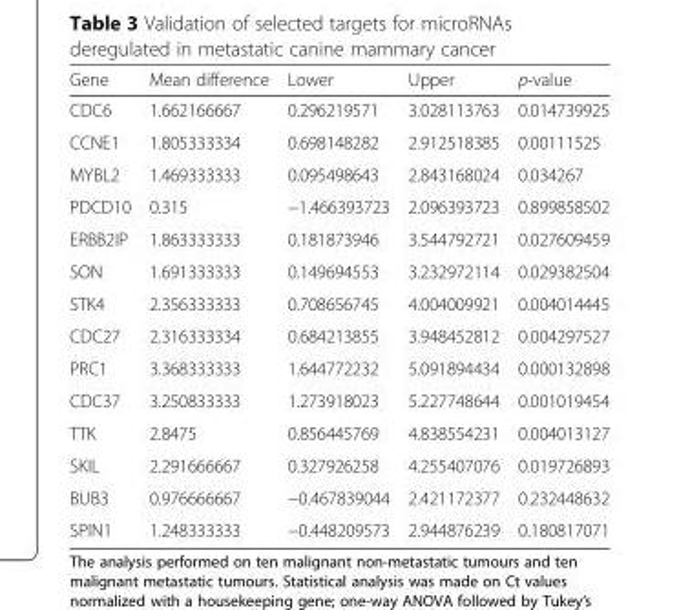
<table><thead><tr><td>Gene</td><td>Mean difference</td><td>Lower</td><td>Upper</td><td>p-value</td></tr></thead><tbody><tr><td>CDC6</td><td>1.662166667</td><td>0.296219571</td><td>3.028113763</td><td>0.014739925</td></tr><tr><td>CCNE1</td><td>1.805333334</td><td>0.698148282</td><td>2.912518385</td><td>0.00111525</td></tr><tr><td>MYBL2</td><td>1.469333333</td><td>0.095498643</td><td>2.843168024</td><td>0.034267</td></tr><tr><td>PDCD10</td><td>0.315</td><td>−1.466393723</td><td>2.096393723</td><td>0.899858502</td></tr><tr><td>ERBB2IP</td><td>1.863333333</td><td>0.181873946</td><td>3.544792721</td><td>0.027609459</td></tr><tr><td>SON</td><td>1.691333333</td><td>0.149694553</td><td>3.232972114</td><td>0.029382504</td></tr><tr><td>STK4</td><td>2.356333333</td><td>0.708656745</td><td>4.004009921</td><td>0.004014445</td></tr><tr><td>CDC27</td><td>2.316333334</td><td>0.684213855</td><td>3.948452812</td><td>0.004297527</td></tr><tr><td>PRC1</td><td>3.368333333</td><td>1.644772232</td><td>5.091894434</td><td>0.000132898</td></tr><tr><td>CDC37</td><td>3.250833333</td><td>1.273918023</td><td>5.227748644</td><td>0.001019454</td></tr><tr><td>TTK</td><td>2.8475</td><td>0.856445769</td><td>4.838554231</td><td>0.004013127</td></tr><tr><td>SKIL</td><td>2.291666667</td><td>0.327926258</td><td>4.255407076</td><td>0.019726893</td></tr><tr><td>BUB3</td><td>0.976666667</td><td>−0.467839044</td><td>2.421172377</td><td>0.232448632</td></tr><tr><td>SPIN1</td><td>1.248333333</td><td>−0.448209573</td><td>2.944876239</td><td>0.180817071</td></tr></tbody></table>